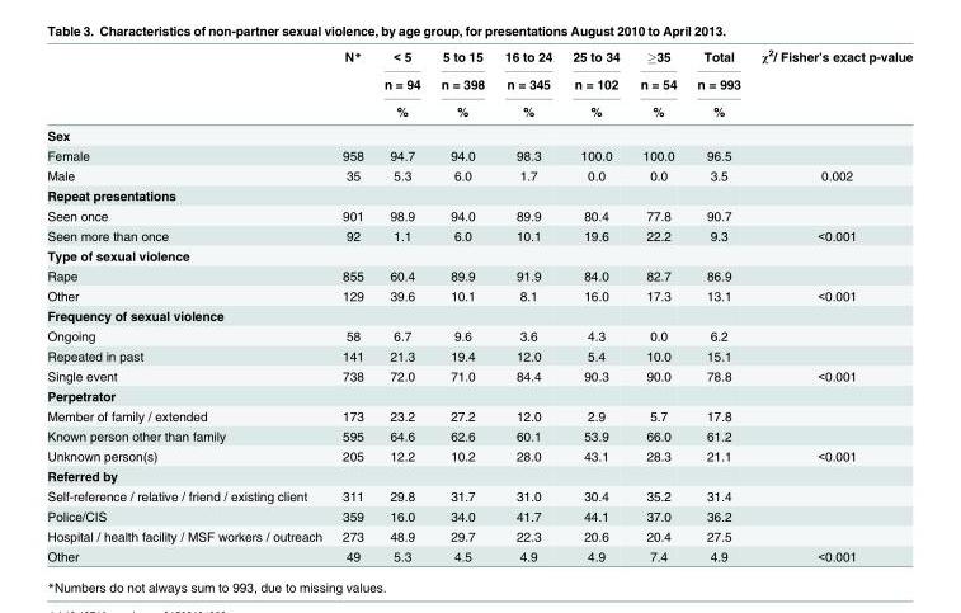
<table><thead><tr><td rowspan="3"></td><td rowspan="3">N*</td><td rowspan="3">&lt; 5 n = 94 %</td><td rowspan="3">5 to 15 n = 398 %</td><td rowspan="3">16 to 24 n = 345 %</td><td rowspan="3">25 to 34 n = 102 %</td><td rowspan="3">≥35 n = 54 %</td><td rowspan="3">Total n = 993 %</td><td rowspan="3">χ<sup>2</sup>/ Fisher’s exact p-value</td></tr><tr></tr><tr></tr></thead><tbody><tr><td colspan="9">Sex</td></tr><tr><td>Female</td><td>958</td><td>94.7</td><td>94.0</td><td>98.3</td><td>100.0</td><td>100.0</td><td>96.5</td><td></td></tr><tr><td>Male</td><td>35</td><td>5.3</td><td>6.0</td><td>1.7</td><td>0.0</td><td>0.0</td><td>3.5</td><td>0.002</td></tr><tr><td colspan="9">Repeat presentations</td></tr><tr><td>Seen once</td><td>901</td><td>98.9</td><td>94.0</td><td>89.9</td><td>80.4</td><td>77.8</td><td>90.7</td><td></td></tr><tr><td>Seen more than once</td><td>92</td><td>1.1</td><td>6.0</td><td>10.1</td><td>19.6</td><td>22.2</td><td>9.3</td><td>&lt;0.001</td></tr><tr><td colspan="9">Type of sexual violence</td></tr><tr><td>Rape</td><td>855</td><td>60.4</td><td>89.9</td><td>91.9</td><td>84.0</td><td>82.7</td><td>86.9</td><td></td></tr><tr><td>Other</td><td>129</td><td>39.6</td><td>10.1</td><td>8.1</td><td>16.0</td><td>17.3</td><td>13.1</td><td>&lt;0.001</td></tr><tr><td colspan="9">Frequency of sexual violence</td></tr><tr><td>Ongoing</td><td>58</td><td>6.7</td><td>9.6</td><td>3.6</td><td>4.3</td><td>0.0</td><td>6.2</td><td></td></tr><tr><td>Repeated in past</td><td>141</td><td>21.3</td><td>19.4</td><td>12.0</td><td>5.4</td><td>10.0</td><td>15.1</td><td></td></tr><tr><td>Single event</td><td>738</td><td>72.0</td><td>71.0</td><td>84.4</td><td>90.3</td><td>90.0</td><td>78.8</td><td>&lt;0.001</td></tr><tr><td colspan="9">Perpetrator</td></tr><tr><td>Member of family / extended</td><td>173</td><td>23.2</td><td>27.2</td><td>12.0</td><td>2.9</td><td>5.7</td><td>17.8</td><td></td></tr><tr><td>Known person other than family</td><td>595</td><td>64.6</td><td>62.6</td><td>60.1</td><td>53.9</td><td>66.0</td><td>61.2</td><td></td></tr><tr><td>Unknown person(s)</td><td>205</td><td>12.2</td><td>10.2</td><td>28.0</td><td>43.1</td><td>28.3</td><td>21.1</td><td>&lt;0.001</td></tr><tr><td colspan="9">Referred by</td></tr><tr><td>Self-reference / relative / friend / existing client</td><td>311</td><td>29.8</td><td>31.7</td><td>31.0</td><td>30.4</td><td>35.2</td><td>31.4</td><td></td></tr><tr><td>Police/CIS</td><td>359</td><td>16.0</td><td>34.0</td><td>41.7</td><td>44.1</td><td>37.0</td><td>36.2</td><td></td></tr><tr><td>Hospital / health facility / MSF workers / outreach</td><td>273</td><td>48.9</td><td>29.7</td><td>22.3</td><td>20.6</td><td>20.4</td><td>27.5</td><td></td></tr><tr><td>Other</td><td>49</td><td>5.3</td><td>4.5</td><td>4.9</td><td>4.9</td><td>7.4</td><td>4.9</td><td>&lt;0.001</td></tr></tbody></table>